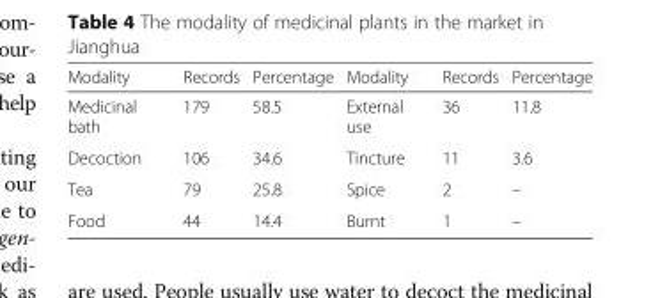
<table><thead><tr><td>Modality</td><td>Records</td><td>Percentage</td><td>Modality</td><td>Records</td><td>Percentage</td></tr></thead><tbody><tr><td>Medicinal bath</td><td>179</td><td>58.5</td><td>External use</td><td>36</td><td>11.8</td></tr><tr><td>Decoction</td><td>106</td><td>34.6</td><td>Tincture</td><td>11</td><td>3.6</td></tr><tr><td>Tea</td><td>79</td><td>25.8</td><td>Spice</td><td>2</td><td>–</td></tr><tr><td>Food</td><td>44</td><td>14.4</td><td>Burnt</td><td>1</td><td>–</td></tr></tbody></table>